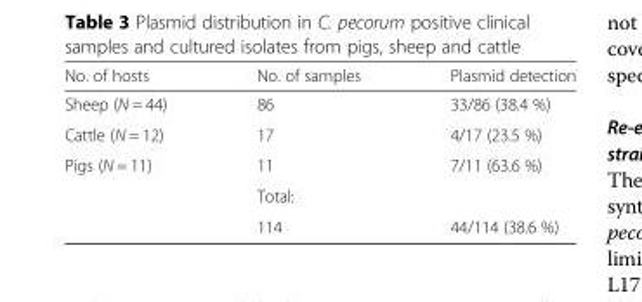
<table><thead><tr><td>No. of hosts</td><td>No. of samples</td><td>Plasmid detection</td></tr></thead><tbody><tr><td>Sheep (N = 44)</td><td>86</td><td>33/86 (38.4 %)</td></tr><tr><td>Cattle (N = 12)</td><td>17</td><td>4/17 (23.5 %)</td></tr><tr><td rowspan="3">Pigs (N = 11)</td><td>11</td><td>7/11 (63.6 %)</td></tr><tr><td>Total:</td><td></td></tr><tr><td>114</td><td>44/114 (38.6 %)</td></tr></tbody></table>